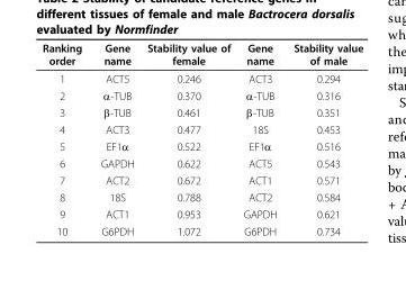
<table><thead><tr><td>Ranking order</td><td>Gene name</td><td>Stability value of female</td><td>Gene name</td><td>Stability value of male</td></tr></thead><tbody><tr><td>1</td><td>ACT5</td><td>0.246</td><td>ACT3</td><td>0.294</td></tr><tr><td>2</td><td>α-TUB</td><td>0.370</td><td>α-TUB</td><td>0.316</td></tr><tr><td>3</td><td>β-TUB</td><td>0.461</td><td>β-TUB</td><td>0.351</td></tr><tr><td>4</td><td>ACT3</td><td>0.477</td><td>18S</td><td>0.453</td></tr><tr><td>5</td><td>EF1α</td><td>0.522</td><td>EF1α</td><td>0.516</td></tr><tr><td>6</td><td>GAPDH</td><td>0.622</td><td>ACT5</td><td>0.543</td></tr><tr><td>7</td><td>ACT2</td><td>0.672</td><td>ACT1</td><td>0.571</td></tr><tr><td>8</td><td>18S</td><td>0.788</td><td>ACT2</td><td>0.584</td></tr><tr><td>9</td><td>ACT1</td><td>0.953</td><td>GAPDH</td><td>0.621</td></tr><tr><td>10</td><td>G6PDH</td><td>1.072</td><td>G6PDH</td><td>0.734</td></tr></tbody></table>